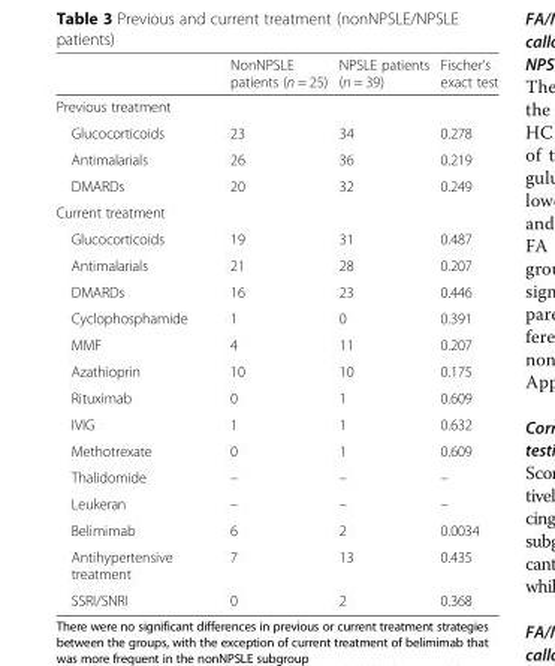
<table><thead><tr><td></td><td>NonNPSLE patients (n = 25)</td><td>NPSLE patients (n = 39)</td><td>Fischer’s exact test</td></tr></thead><tbody><tr><td colspan="4">Previous treatment</td></tr><tr><td>Glucocorticoids</td><td>23</td><td>34</td><td>0.278</td></tr><tr><td>Antimalarials</td><td>26</td><td>36</td><td>0.219</td></tr><tr><td>DMARDs</td><td>20</td><td>32</td><td>0.249</td></tr><tr><td colspan="4">Current treatment</td></tr><tr><td>Glucocorticoids</td><td>19</td><td>31</td><td>0.487</td></tr><tr><td>Antimalarials</td><td>21</td><td>28</td><td>0.207</td></tr><tr><td>DMARDs</td><td>16</td><td>23</td><td>0.446</td></tr><tr><td>Cyclophosphamide</td><td>1</td><td>0</td><td>0.391</td></tr><tr><td>MMF</td><td>4</td><td>11</td><td>0.207</td></tr><tr><td>Azathioprin</td><td>10</td><td>10</td><td>0.175</td></tr><tr><td>Rituximab</td><td>0</td><td>1</td><td>0.609</td></tr><tr><td>IVIG</td><td>1</td><td>1</td><td>0.632</td></tr><tr><td>Methotrexate</td><td>0</td><td>1</td><td>0.609</td></tr><tr><td>Thalidomide</td><td>–</td><td>–</td><td>–</td></tr><tr><td>Leukeran</td><td>–</td><td>–</td><td>–</td></tr><tr><td>Belimimab</td><td>6</td><td>2</td><td>0.0034</td></tr><tr><td>Antihypertensive treatment</td><td>7</td><td>13</td><td>0.435</td></tr><tr><td>SSRI/SNRI</td><td>0</td><td>2</td><td>0.368</td></tr></tbody></table>